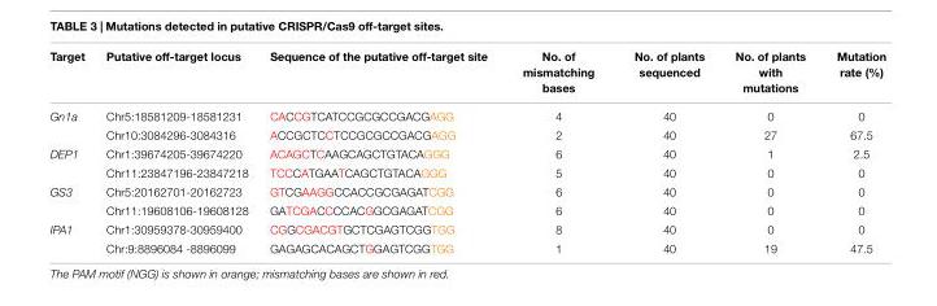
<table><thead><tr><td>Target</td><td>Putative off-target locus</td><td>Sequence of the putative off-target site</td><td>No. of mismatching bases</td><td>No. of plants sequenced</td><td>No. of plants with mutations</td><td>Mutation rate (%)</td></tr></thead><tbody><tr><td rowspan="2">Gn1a</td><td>Chr5:18581209-18581231</td><td>CACCGTCATCCGCGCCGACGAGG</td><td>4</td><td>40</td><td>0</td><td>0</td></tr><tr><td>Chr10:3084296-3084316</td><td>ACCGCTCCTCCGCGCCGACGAGG</td><td>2</td><td>40</td><td>27</td><td>67.5</td></tr><tr><td rowspan="2">DEP1</td><td>Chr1:39674205-39674220</td><td>ACAGCTCAAGCAGCTGTACAGGG</td><td>6</td><td>40</td><td>1</td><td>2.5</td></tr><tr><td>Chr11:23847196-23847218</td><td>TCCCATGAATCAGCTGTACAGGG</td><td>5</td><td>40</td><td>0</td><td>0</td></tr><tr><td rowspan="2">GS3</td><td>Chr5:20162701-20162723</td><td>GTCGAAGGCCACCGCGAGATCGG</td><td>6</td><td>40</td><td>0</td><td>0</td></tr><tr><td>Chr11:19608106-19608128</td><td>GATCGACCCCACGGCGAGATCGG</td><td>6</td><td>40</td><td>0</td><td>0</td></tr><tr><td rowspan="2">IPA1</td><td>Chr1:30959378-30959400</td><td>CGGCGACGTGCTCGAGTCGGTGG</td><td>8</td><td>40</td><td>0</td><td>0</td></tr><tr><td>Chr:9:8896084 -8896099</td><td>GAGAGCACAGCTGGAGTCGGTGG</td><td>1</td><td>40</td><td>19</td><td>47.5</td></tr></tbody></table>